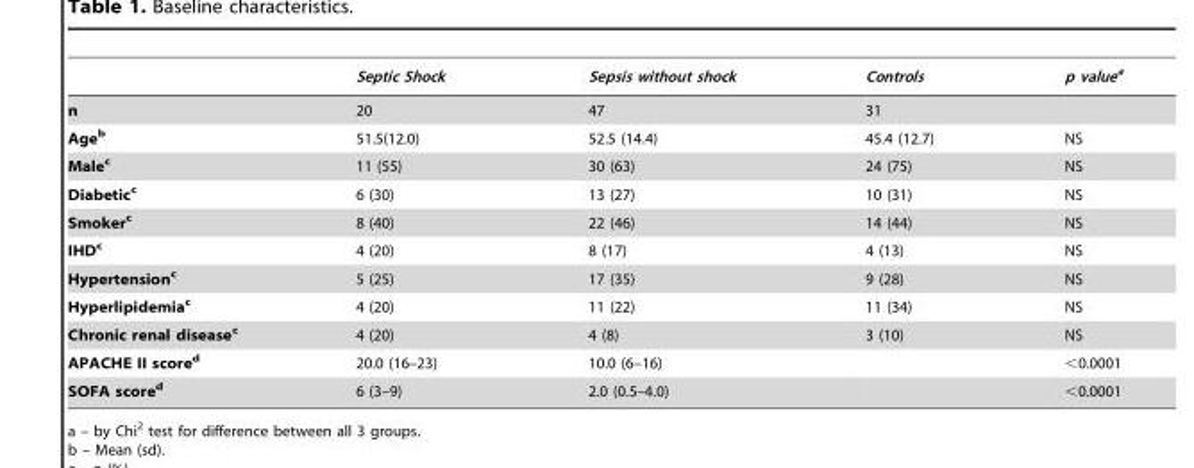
<table><thead><tr><td></td><td>Septic Shock</td><td>Sepsis without shock</td><td>Controls</td><td>p valuea</td></tr></thead><tbody><tr><td>n</td><td>20</td><td>47</td><td>31</td><td></td></tr><tr><td>Ageb</td><td>51.5(12.0)</td><td>52.5 (14.4)</td><td>45.4 (12.7)</td><td>NS</td></tr><tr><td>Malec</td><td>11 (55)</td><td>30 (63)</td><td>24 (75)</td><td>NS</td></tr><tr><td>Diabeticc</td><td>6 (30)</td><td>13 (27)</td><td>10 (31)</td><td>NS</td></tr><tr><td>Smokerc</td><td>8 (40)</td><td>22 (46)</td><td>14 (44)</td><td>NS</td></tr><tr><td>IHDc</td><td>4 (20)</td><td>8 (17)</td><td>4 (13)</td><td>NS</td></tr><tr><td>Hypertensionc</td><td>5 (25)</td><td>17 (35)</td><td>9 (28)</td><td>NS</td></tr><tr><td>Hyperlipidemiac</td><td>4 (20)</td><td>11 (22)</td><td>11 (34)</td><td>NS</td></tr><tr><td>Chronic renal diseasec</td><td>4 (20)</td><td>4 (8)</td><td>3 (10)</td><td>NS</td></tr><tr><td>APACHE II scored</td><td>20.0 (16–23)</td><td>10.0 (6–16)</td><td></td><td>&lt;0.0001</td></tr><tr><td>SOFA scored</td><td>6 (3–9)</td><td>2.0 (0.5–4.0)</td><td></td><td>&lt;0.0001</td></tr></tbody></table>